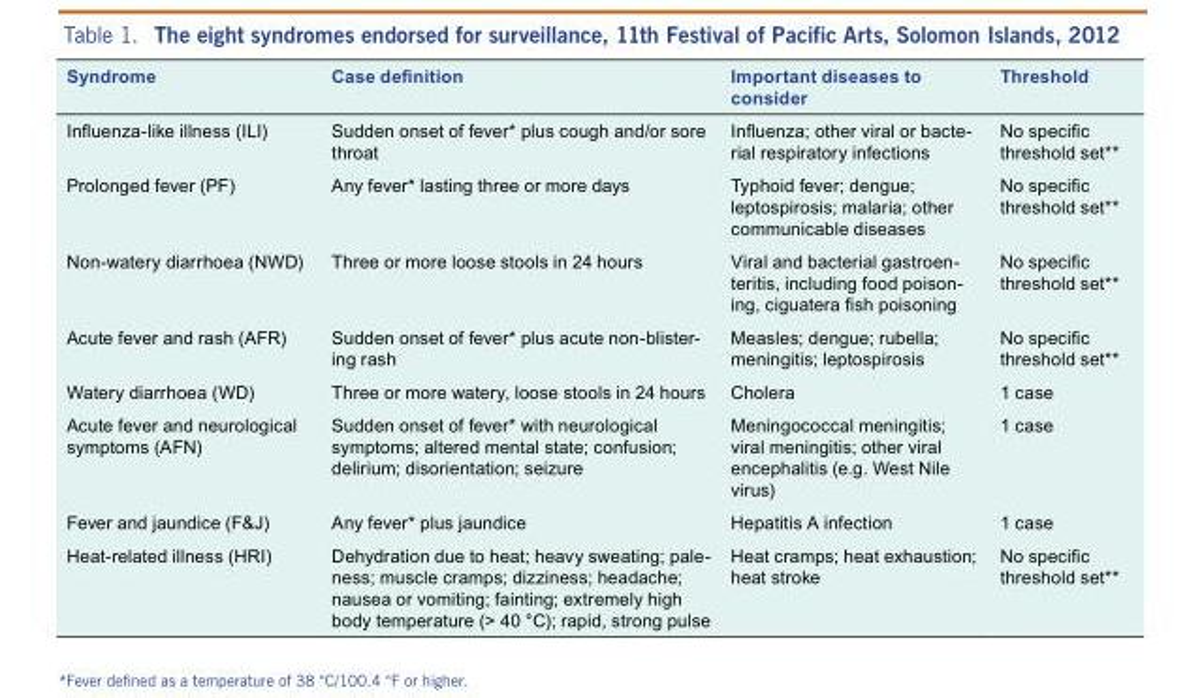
<table><thead><tr><td>Syndrome</td><td>Case definition</td><td>Important diseases to consider</td><td>Threshold</td></tr></thead><tbody><tr><td>Influenza-like illness (ILI)</td><td>Sudden onset of fever* plus cough and/or sore throat</td><td>Influenza; other viral or bacte- rial respiratory infections</td><td>No specific threshold set**</td></tr><tr><td>Prolonged fever (PF)</td><td>Any fever* lasting three or more days</td><td>Typhoid fever; dengue; leptospirosis; malaria; other communicable diseases</td><td>No specific threshold set**</td></tr><tr><td>Non-watery diarrhoea (NWD)</td><td>Three or more loose stools in 24 hours</td><td>Viral and bacterial gastroen- teritis, including food poison- ing, ciguatera fish poisoning</td><td>No specific threshold set**</td></tr><tr><td>Acute fever and rash (AFR)</td><td>Sudden onset of fever* plus acute non-blister- ing rash</td><td>Measles; dengue; rubella; meningitis; leptospirosis</td><td>No specific threshold set**</td></tr><tr><td>Watery diarrhoea (WD)</td><td>Three or more watery, loose stools in 24 hours</td><td>Cholera</td><td>1 case</td></tr><tr><td>Acute fever and neurological symptoms (AFN)</td><td>Sudden onset of fever* with neurological symptoms; altered mental state; confusion; delirium; disorientation; seizure</td><td>Meningococcal meningitis; viral meningitis; other viral encephalitis (e.g. West Nile virus)</td><td>1 case</td></tr><tr><td>Fever and jaundice (F&amp;J)</td><td>Any fever* plus jaundice</td><td>Hepatitis A infection</td><td>1 case</td></tr><tr><td>Heat-related illness (HRI)</td><td>Dehydration due to heat; heavy sweating; pale- ness; muscle cramps; dizziness; headache; nausea or vomiting; fainting; extremely high body temperature (&gt; 40 °C); rapid, strong pulse</td><td>Heat cramps; heat exhaustion; heat stroke</td><td>No specific threshold set**</td></tr></tbody></table>